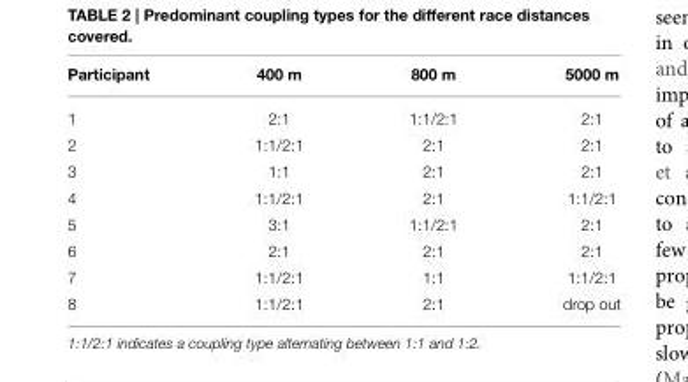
<table><thead><tr><td>Participant</td><td>400 m</td><td>800 m</td><td>5000 m</td></tr></thead><tbody><tr><td>1</td><td>2:1</td><td>1:1/2:1</td><td>2:1</td></tr><tr><td>2</td><td>1:1/2:1</td><td>2:1</td><td>2:1</td></tr><tr><td>3</td><td>1:1</td><td>2:1</td><td>2:1</td></tr><tr><td>4</td><td>1:1/2:1</td><td>2:1</td><td>1:1/2:1</td></tr><tr><td>5</td><td>3:1</td><td>1:1/2:1</td><td>2:1</td></tr><tr><td>6</td><td>2:1</td><td>2:1</td><td>2:1</td></tr><tr><td>7</td><td>1:1/2:1</td><td>1:1</td><td>1:1/2:1</td></tr><tr><td>8</td><td>1:1/2:1</td><td>2:1</td><td>drop out</td></tr></tbody></table>